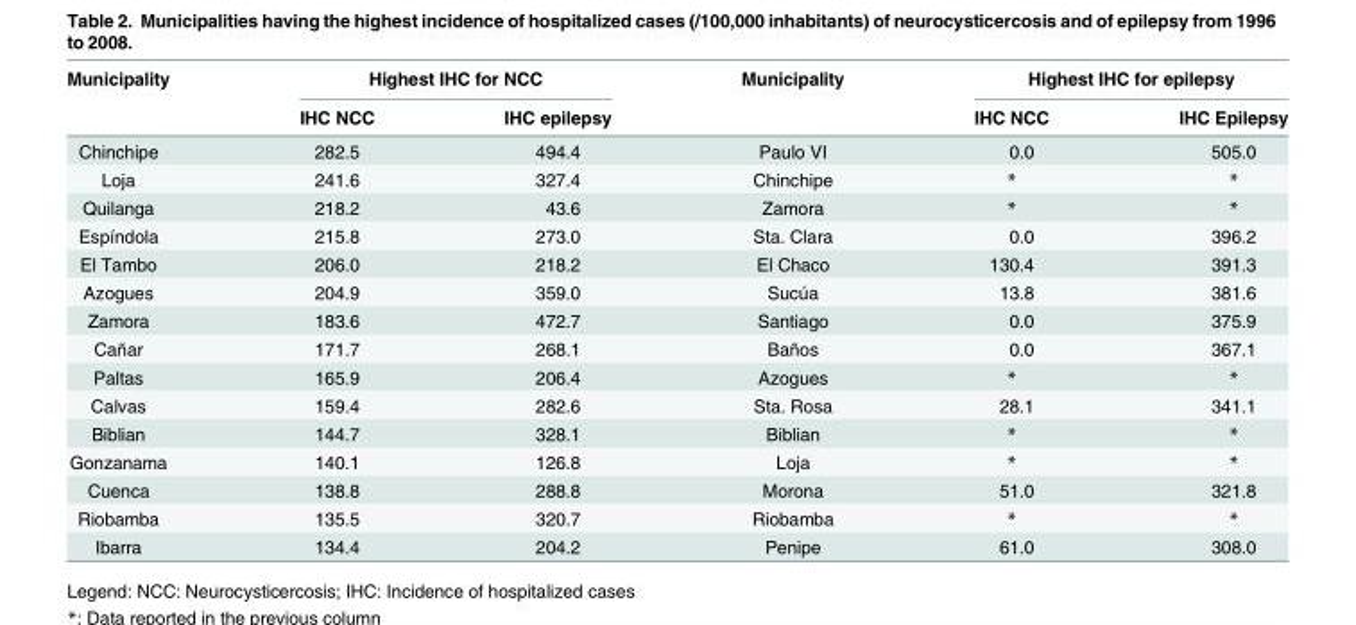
<table><thead><tr><td rowspan="2">Municipality</td><td colspan="2">Highest IHC for NCC</td><td rowspan="2">Municipality</td><td colspan="2">Highest IHC for epilepsy</td></tr><tr><td>IHC NCC</td><td>IHC epilepsy</td><td>IHC NCC</td><td>IHC Epilepsy</td></tr></thead><tbody><tr><td>Chinchipe</td><td>282.5</td><td>494.4</td><td>Paulo VI</td><td>0.0</td><td>505.0</td></tr><tr><td>Loja</td><td>241.6</td><td>327.4</td><td>Chinchipe</td><td>*</td><td>*</td></tr><tr><td>Quilanga</td><td>218.2</td><td>43.6</td><td>Zamora</td><td>*</td><td>*</td></tr><tr><td>Espíndola</td><td>215.8</td><td>273.0</td><td>Sta. Clara</td><td>0.0</td><td>396.2</td></tr><tr><td>El Tambo</td><td>206.0</td><td>218.2</td><td>El Chaco</td><td>130.4</td><td>391.3</td></tr><tr><td>Azogues</td><td>204.9</td><td>359.0</td><td>Sucúa</td><td>13.8</td><td>381.6</td></tr><tr><td>Zamora</td><td>183.6</td><td>472.7</td><td>Santiago</td><td>0.0</td><td>375.9</td></tr><tr><td>Cañar</td><td>171.7</td><td>268.1</td><td>Baños</td><td>0.0</td><td>367.1</td></tr><tr><td>Paltas</td><td>165.9</td><td>206.4</td><td>Azogues</td><td>*</td><td>*</td></tr><tr><td>Calvas</td><td>159.4</td><td>282.6</td><td>Sta. Rosa</td><td>28.1</td><td>341.1</td></tr><tr><td>Biblian</td><td>144.7</td><td>328.1</td><td>Biblian</td><td>*</td><td>*</td></tr><tr><td>Gonzanama</td><td>140.1</td><td>126.8</td><td>Loja</td><td>*</td><td>*</td></tr><tr><td>Cuenca</td><td>138.8</td><td>288.8</td><td>Morona</td><td>51.0</td><td>321.8</td></tr><tr><td>Riobamba</td><td>135.5</td><td>320.7</td><td>Riobamba</td><td>*</td><td>*</td></tr><tr><td>Ibarra</td><td>134.4</td><td>204.2</td><td>Penipe</td><td>61.0</td><td>308.0</td></tr></tbody></table>